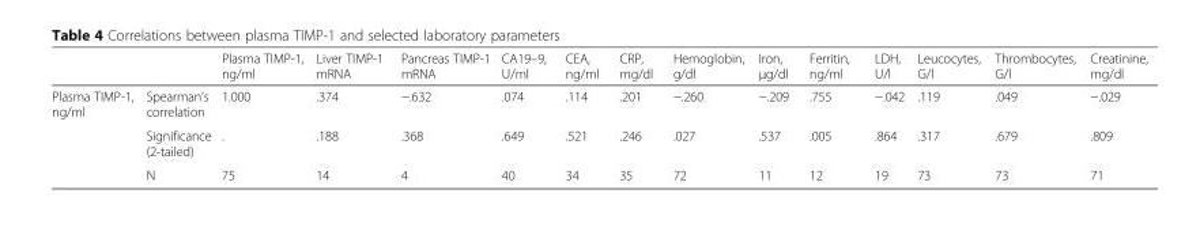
<table><thead><tr><td></td><td></td><td>Plasma TIMP-1, ng/ml</td><td>Liver TIMP-1 mRNA</td><td>Pancreas TIMP-1 mRNA</td><td>CA19–9, U/ml</td><td>CEA, ng/ml</td><td>CRP, mg/dl</td><td>Hemoglobin, g/dl</td><td>Iron, μg/dl</td><td>Ferritin, ng/ml</td><td>LDH, U/l</td><td>Leucocytes, G/l</td><td>Thrombocytes, G/l</td><td>Creatinine, mg/dl</td></tr></thead><tbody><tr><td rowspan="3">Plasma TIMP-1, ng/ml</td><td>Spearman’s correlation</td><td>1.000</td><td>.374</td><td>−.632</td><td>.074</td><td>.114</td><td>.201</td><td>−.260</td><td>−.209</td><td>.755</td><td>−.042</td><td>.119</td><td>.049</td><td>−.029</td></tr><tr><td>Significance (2-tailed)</td><td>.</td><td>.188</td><td>.368</td><td>.649</td><td>.521</td><td>.246</td><td>.027</td><td>.537</td><td>.005</td><td>.864</td><td>.317</td><td>.679</td><td>.809</td></tr><tr><td>N</td><td>75</td><td>14</td><td>4</td><td>40</td><td>34</td><td>35</td><td>72</td><td>11</td><td>12</td><td>19</td><td>73</td><td>73</td><td>71</td></tr></tbody></table>